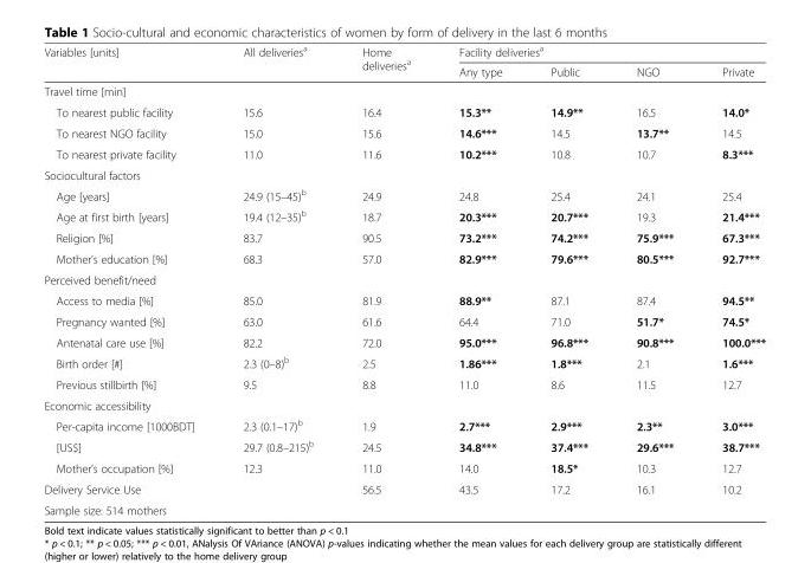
<table><thead><tr><td rowspan="2">Variables [units]</td><td rowspan="2">All deliveries<sup>a</sup></td><td rowspan="2">Home deliveries<sup>a</sup></td><td colspan="4">Facility deliveries<sup>a</sup></td></tr><tr><td>Any type</td><td>Public</td><td>NGO</td><td>Private</td></tr></thead><tbody><tr><td colspan="7">Travel time [min]</td></tr><tr><td>To nearest public facility</td><td>15.6</td><td>16.4</td><td>15.3**</td><td>14.9**</td><td>16.5</td><td>14.0*</td></tr><tr><td>To nearest NGO facility</td><td>15.0</td><td>15.6</td><td>14.6***</td><td>14.5</td><td>13.7**</td><td>14.5</td></tr><tr><td>To nearest private facility</td><td>11.0</td><td>11.6</td><td>10.2***</td><td>10.8</td><td>10.7</td><td>8.3***</td></tr><tr><td colspan="7">Sociocultural factors</td></tr><tr><td>Age [years]</td><td>24.9 (15–45)<sup>b</sup></td><td>24.9</td><td>24.8</td><td>25.4</td><td>24.1</td><td>25.4</td></tr><tr><td>Age at first birth [years]</td><td>19.4 (12–35)<sup>b</sup></td><td>18.7</td><td>20.3***</td><td>20.7***</td><td>19.3</td><td>21.4***</td></tr><tr><td>Religion [%]</td><td>83.7</td><td>90.5</td><td>73.2***</td><td>74.2***</td><td>75.9***</td><td>67.3***</td></tr><tr><td>Mother’s education [%]</td><td>68.3</td><td>57.0</td><td>82.9***</td><td>79.6***</td><td>80.5***</td><td>92.7***</td></tr><tr><td colspan="7">Perceived benefit/need</td></tr><tr><td>Access to media [%]</td><td>85.0</td><td>81.9</td><td>88.9**</td><td>87.1</td><td>87.4</td><td>94.5**</td></tr><tr><td>Pregnancy wanted [%]</td><td>63.0</td><td>61.6</td><td>64.4</td><td>71.0</td><td>51.7*</td><td>74.5*</td></tr><tr><td>Antenatal care use [%]</td><td>82.2</td><td>72.0</td><td>95.0***</td><td>96.8***</td><td>90.8***</td><td>100.0***</td></tr><tr><td>Birth order [#]</td><td>2.3 (0–8)<sup>b</sup></td><td>2.5</td><td>1.86***</td><td>1.8***</td><td>2.1</td><td>1.6***</td></tr><tr><td>Previous stillbirth [%]</td><td>9.5</td><td>8.8</td><td>11.0</td><td>8.6</td><td>11.5</td><td>12.7</td></tr><tr><td colspan="7">Economic accessibility</td></tr><tr><td>Per-capita income [1000BDT]</td><td>2.3 (0.1–17)<sup>b</sup></td><td>1.9</td><td>2.7***</td><td>2.9***</td><td>2.3**</td><td>3.0***</td></tr><tr><td>[US$]</td><td>29.7 (0.8–215)<sup>b</sup></td><td>24.5</td><td>34.8***</td><td>37.4***</td><td>29.6***</td><td>38.7***</td></tr><tr><td>Mother’s occupation [%]</td><td>12.3</td><td>11.0</td><td>14.0</td><td>18.5*</td><td>10.3</td><td>12.7</td></tr><tr><td>Delivery Service Use</td><td></td><td>56.5</td><td>43.5</td><td>17.2</td><td>16.1</td><td>10.2</td></tr><tr><td colspan="7">Sample size: 514 mothers</td></tr></tbody></table>